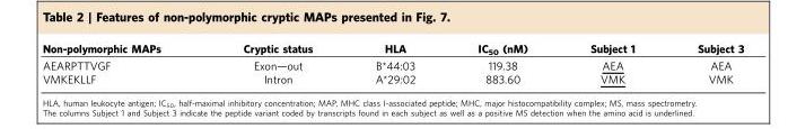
<table><thead><tr><td>Non-polymorphic MAPs</td><td>Cryptic status</td><td>HLA</td><td>IC<sub>50</sub> (nM)</td><td>Subject 1</td><td>Subject 3</td></tr></thead><tbody><tr><td>AEARPTTVGF</td><td>Exon—out</td><td>B*44:03</td><td>119.38</td><td>AEA</td><td>AEA</td></tr><tr><td>VMKEKLLF</td><td>Intron</td><td>A*29:02</td><td>883.60</td><td>VMK</td><td>VMK</td></tr></tbody></table>